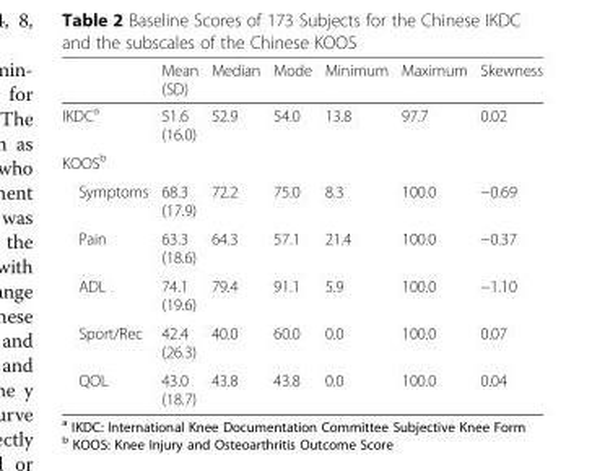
<table><thead><tr><td></td><td>Mean (SD)</td><td>Median</td><td>Mode</td><td>Minimum</td><td>Maximum</td><td>Skewness</td></tr></thead><tbody><tr><td>IKDC<sup>a</sup></td><td>51.6 (16.0)</td><td>52.9</td><td>54.0</td><td>13.8</td><td>97.7</td><td>0.02</td></tr><tr><td colspan="7">KOOS<sup>b</sup></td></tr><tr><td>Symptoms</td><td>68.3 (17.9)</td><td>72.2</td><td>75.0</td><td>8.3</td><td>100.0</td><td>−0.69</td></tr><tr><td>Pain</td><td>63.3 (18.6)</td><td>64.3</td><td>57.1</td><td>21.4</td><td>100.0</td><td>−0.37</td></tr><tr><td>ADL</td><td>74.1 (19.6)</td><td>79.4</td><td>91.1</td><td>5.9</td><td>100.0</td><td>−1.10</td></tr><tr><td>Sport/Rec</td><td>42.4 (26.3)</td><td>40.0</td><td>60.0</td><td>0.0</td><td>100.0</td><td>0.07</td></tr><tr><td>QOL</td><td>43.0 (18.7)</td><td>43.8</td><td>43.8</td><td>0.0</td><td>100.0</td><td>0.04</td></tr></tbody></table>